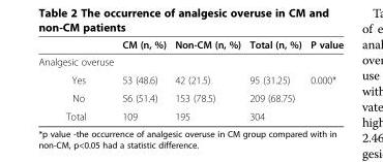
<table><thead><tr><td></td><td>CM (n, %)</td><td>Non-CM (n, %)</td><td>Total (n, %)</td><td>P value</td></tr></thead><tbody><tr><td colspan="5">Analgesic overuse</td></tr><tr><td>Yes</td><td>53 (48.6)</td><td>42 (21.5)</td><td>95 (31.25)</td><td>0.000*</td></tr><tr><td>No</td><td>56 (51.4)</td><td>153 (78.5)</td><td>209 (68.75)</td><td></td></tr><tr><td>Total</td><td>109</td><td>195</td><td>304</td><td></td></tr></tbody></table>